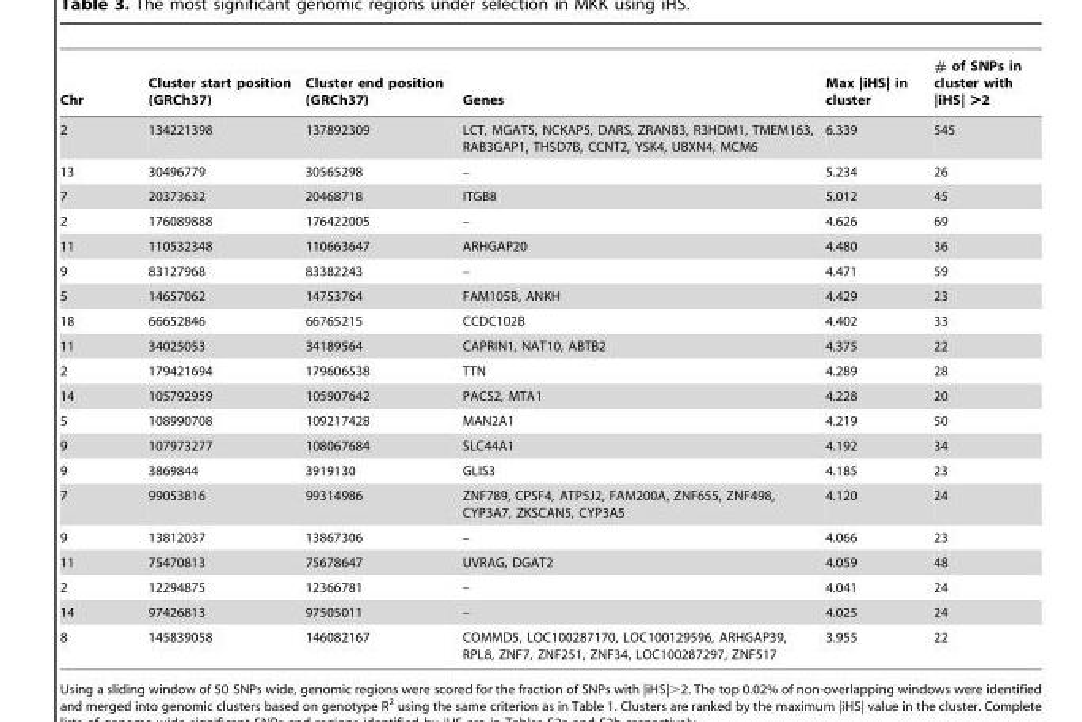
<table><thead><tr><td>Chr</td><td>Cluster start position (GRCh37)</td><td>Cluster end position (GRCh37)</td><td>Genes</td><td>Max |iHS| in cluster</td><td># of SNPs in cluster with |iHS| &gt;2</td></tr></thead><tbody><tr><td>2</td><td>134221398</td><td>137892309</td><td>LCT, MGAT5, NCKAP5, DARS, ZRANB3, R3HDM1, TMEM163, RAB3GAP1, THSD7B, CCNT2, YSK4, UBXN4, MCM6</td><td>6.339</td><td>545</td></tr><tr><td>13</td><td>30496779</td><td>30565298</td><td>–</td><td>5.234</td><td>26</td></tr><tr><td>7</td><td>20373632</td><td>20468718</td><td>ITGB8</td><td>5.012</td><td>45</td></tr><tr><td>2</td><td>176089888</td><td>176422005</td><td>–</td><td>4.626</td><td>69</td></tr><tr><td>11</td><td>110532348</td><td>110663647</td><td>ARHGAP20</td><td>4.480</td><td>36</td></tr><tr><td>9</td><td>83127968</td><td>83382243</td><td>–</td><td>4.471</td><td>59</td></tr><tr><td>5</td><td>14657062</td><td>14753764</td><td>FAM105B, ANKH</td><td>4.429</td><td>23</td></tr><tr><td>18</td><td>66652846</td><td>66765215</td><td>CCDC102B</td><td>4.402</td><td>33</td></tr><tr><td>11</td><td>34025053</td><td>34189564</td><td>CAPRIN1, NAT10, ABTB2</td><td>4.375</td><td>22</td></tr><tr><td>2</td><td>179421694</td><td>179606538</td><td>TTN</td><td>4.289</td><td>28</td></tr><tr><td>14</td><td>105792959</td><td>105907642</td><td>PACS2, MTA1</td><td>4.228</td><td>20</td></tr><tr><td>5</td><td>108990708</td><td>109217428</td><td>MAN2A1</td><td>4.219</td><td>50</td></tr><tr><td>9</td><td>107973277</td><td>108067684</td><td>SLC44A1</td><td>4.192</td><td>34</td></tr><tr><td>9</td><td>3869844</td><td>3919130</td><td>GLIS3</td><td>4.185</td><td>23</td></tr><tr><td>7</td><td>99053816</td><td>99314986</td><td>ZNF789, CPSF4, ATP5J2, FAM200A, ZNF655, ZNF498, CYP3A7, ZKSCAN5, CYP3A5</td><td>4.120</td><td>24</td></tr><tr><td>9</td><td>13812037</td><td>13867306</td><td>–</td><td>4.066</td><td>23</td></tr><tr><td>11</td><td>75470813</td><td>75678647</td><td>UVRAG, DGAT2</td><td>4.059</td><td>48</td></tr><tr><td>2</td><td>12294875</td><td>12366781</td><td>–</td><td>4.041</td><td>24</td></tr><tr><td>14</td><td>97426813</td><td>97505011</td><td>–</td><td>4.025</td><td>24</td></tr><tr><td>8</td><td>145839058</td><td>146082167</td><td>COMMD5, LOC100287170, LOC100129596, ARHGAP39, RPL8, ZNF7, ZNF251, ZNF34, LOC100287297, ZNF517</td><td>3.955</td><td>22</td></tr></tbody></table>